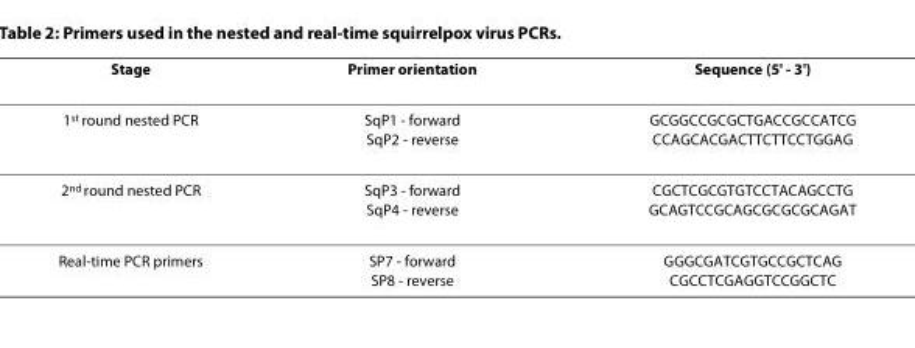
<table><thead><tr><td>Stage</td><td>Primer orientation</td><td>Sequence (5&#x27; - 3&#x27;)</td></tr></thead><tbody><tr><td>1<sup>st</sup> round nested PCR</td><td>SqP1 - forward SqP2 - reverse</td><td>GCGGCCGCGCTGACCGCCATCG CCAGCACGACTTCTTCCTGGAG</td></tr><tr><td>2<sup>nd</sup> round nested PCR</td><td>SqP3 - forward SqP4 - reverse</td><td>CGCTCGCGTGTCCTACAGCCTG GCAGTCCGCAGCGCGCGCAGAT</td></tr><tr><td>Real-time PCR primers</td><td>SP7 - forward SP8 - reverse</td><td>GGGCGATCGTGCCGCTCAG CGCCTCGAGGTCCGGCTC</td></tr></tbody></table>